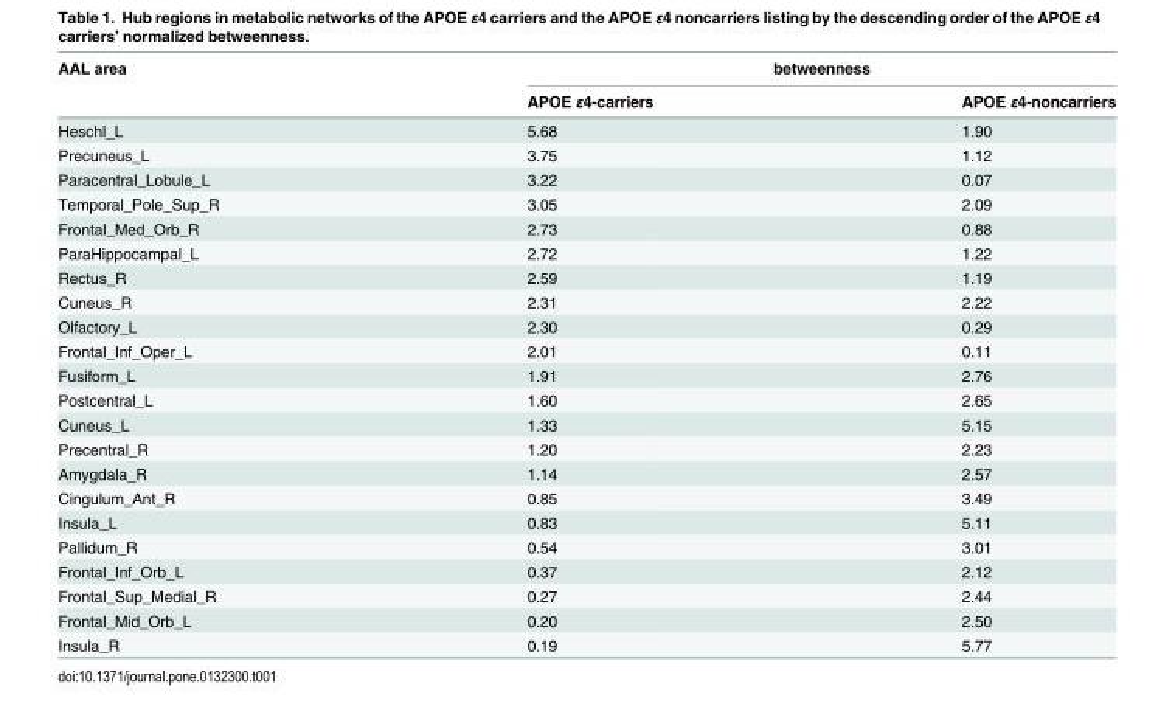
<table><thead><tr><td rowspan="2">AAL area</td><td colspan="2">betweenness</td></tr><tr><td>APOE ε4-carriers</td><td>APOE ε4-noncarriers</td></tr></thead><tbody><tr><td>Heschl_L</td><td>5.68</td><td>1.90</td></tr><tr><td>Precuneus_L</td><td>3.75</td><td>1.12</td></tr><tr><td>Paracentral_Lobule_L</td><td>3.22</td><td>0.07</td></tr><tr><td>Temporal_Pole_Sup_R</td><td>3.05</td><td>2.09</td></tr><tr><td>Frontal_Med_Orb_R</td><td>2.73</td><td>0.88</td></tr><tr><td>ParaHippocampal_L</td><td>2.72</td><td>1.22</td></tr><tr><td>Rectus_R</td><td>2.59</td><td>1.19</td></tr><tr><td>Cuneus_R</td><td>2.31</td><td>2.22</td></tr><tr><td>Olfactory_L</td><td>2.30</td><td>0.29</td></tr><tr><td>Frontal_Inf_Oper_L</td><td>2.01</td><td>0.11</td></tr><tr><td>Fusiform_L</td><td>1.91</td><td>2.76</td></tr><tr><td>Postcentral_L</td><td>1.60</td><td>2.65</td></tr><tr><td>Cuneus_L</td><td>1.33</td><td>5.15</td></tr><tr><td>Precentral_R</td><td>1.20</td><td>2.23</td></tr><tr><td>Amygdala_R</td><td>1.14</td><td>2.57</td></tr><tr><td>Cingulum_Ant_R</td><td>0.85</td><td>3.49</td></tr><tr><td>Insula_L</td><td>0.83</td><td>5.11</td></tr><tr><td>Pallidum_R</td><td>0.54</td><td>3.01</td></tr><tr><td>Frontal_Inf_Orb_L</td><td>0.37</td><td>2.12</td></tr><tr><td>Frontal_Sup_Medial_R</td><td>0.27</td><td>2.44</td></tr><tr><td>Frontal_Mid_Orb_L</td><td>0.20</td><td>2.50</td></tr><tr><td>Insula_R</td><td>0.19</td><td>5.77</td></tr></tbody></table>